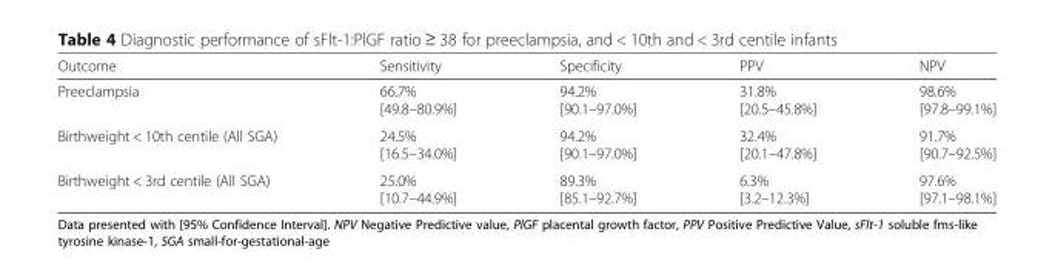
<table><thead><tr><td>Outcome</td><td>Sensitivity</td><td>Specificity</td><td>PPV</td><td>NPV</td></tr></thead><tbody><tr><td>Preeclampsia</td><td>66.7% [49.8–80.9%]</td><td>94.2% [90.1–97.0%]</td><td>31.8% [20.5–45.8%]</td><td>98.6% [97.8–99.1%]</td></tr><tr><td>Birthweight &lt; 10th centile (All SGA)</td><td>24.5% [16.5–34.0%]</td><td>94.2% [90.1–97.0%]</td><td>32.4% [20.1–47.8%]</td><td>91.7% [90.7–92.5%]</td></tr><tr><td>Birthweight &lt; 3rd centile (All SGA)</td><td>25.0% [10.7–44.9%]</td><td>89.3% [85.1–92.7%]</td><td>6.3% [3.2–12.3%]</td><td>97.6% [97.1–98.1%]</td></tr></tbody></table>